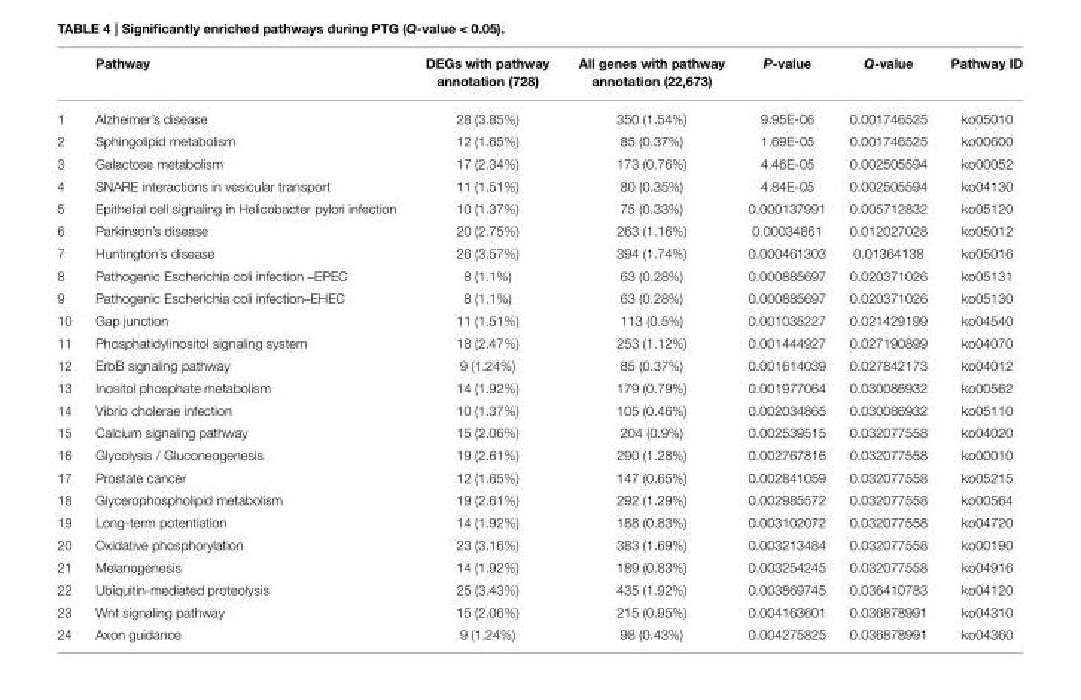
<table><thead><tr><td></td><td>Pathway</td><td>DEGs with pathway annotation (728)</td><td>All genes with pathway annotation (22,673)</td><td>P-value</td><td>Q-value</td><td>Pathway ID</td></tr></thead><tbody><tr><td>1</td><td>Alzheimer’s disease</td><td>28 (3.85%)</td><td>350 (1.54%)</td><td>9.95E-06</td><td>0.001746525</td><td>ko05010</td></tr><tr><td>2</td><td>Sphingolipid metabolism</td><td>12 (1.65%)</td><td>85 (0.37%)</td><td>1.69E-05</td><td>0.001746525</td><td>ko00600</td></tr><tr><td>3</td><td>Galactose metabolism</td><td>17 (2.34%)</td><td>173 (0.76%)</td><td>4.46E-05</td><td>0.002505594</td><td>ko00052</td></tr><tr><td>4</td><td>SNARE interactions in vesicular transport</td><td>11 (1.51%)</td><td>80 (0.35%)</td><td>4.84E-05</td><td>0.002505594</td><td>ko04130</td></tr><tr><td>5</td><td>Epithelial cell signaling in Helicobacter pylori infection</td><td>10 (1.37%)</td><td>75 (0.33%)</td><td>0.000137991</td><td>0.005712832</td><td>ko05120</td></tr><tr><td>6</td><td>Parkinson’s disease</td><td>20 (2.75%)</td><td>263 (1.16%)</td><td>0.00034861</td><td>0.012027028</td><td>ko05012</td></tr><tr><td>7</td><td>Huntington’s disease</td><td>26 (3.57%)</td><td>394 (1.74%)</td><td>0.000461303</td><td>0.01364138</td><td>ko05016</td></tr><tr><td>8</td><td>Pathogenic Escherichia coli infection –EPEC</td><td>8 (1.1%)</td><td>63 (0.28%)</td><td>0.000885697</td><td>0.020371026</td><td>ko05131</td></tr><tr><td>9</td><td>Pathogenic Escherichia coli infection–EHEC</td><td>8 (1.1%)</td><td>63 (0.28%)</td><td>0.000885697</td><td>0.020371026</td><td>ko05130</td></tr><tr><td>10</td><td>Gap junction</td><td>11 (1.51%)</td><td>113 (0.5%)</td><td>0.001035227</td><td>0.021429199</td><td>ko04540</td></tr><tr><td>11</td><td>Phosphatidylinositol signaling system</td><td>18 (2.47%)</td><td>253 (1.12%)</td><td>0.001444927</td><td>0.027190899</td><td>ko04070</td></tr><tr><td>12</td><td>ErbB signaling pathway</td><td>9 (1.24%)</td><td>85 (0.37%)</td><td>0.001614039</td><td>0.027842173</td><td>ko04012</td></tr><tr><td>13</td><td>Inositol phosphate metabolism</td><td>14 (1.92%)</td><td>179 (0.79%)</td><td>0.001977064</td><td>0.030086932</td><td>ko00562</td></tr><tr><td>14</td><td>Vibrio cholerae infection</td><td>10 (1.37%)</td><td>105 (0.46%)</td><td>0.002034865</td><td>0.030086932</td><td>ko05110</td></tr><tr><td>15</td><td>Calcium signaling pathway</td><td>15 (2.06%)</td><td>204 (0.9%)</td><td>0.002539515</td><td>0.032077558</td><td>ko04020</td></tr><tr><td>16</td><td>Glycolysis / Gluconeogenesis</td><td>19 (2.61%)</td><td>290 (1.28%)</td><td>0.002767816</td><td>0.032077558</td><td>ko00010</td></tr><tr><td>17</td><td>Prostate cancer</td><td>12 (1.65%)</td><td>147 (0.65%)</td><td>0.002841059</td><td>0.032077558</td><td>ko05215</td></tr><tr><td>18</td><td>Glycerophospholipid metabolism</td><td>19 (2.61%)</td><td>292 (1.29%)</td><td>0.002985572</td><td>0.032077558</td><td>ko00564</td></tr><tr><td>19</td><td>Long-term potentiation</td><td>14 (1.92%)</td><td>188 (0.83%)</td><td>0.003102072</td><td>0.032077558</td><td>ko04720</td></tr><tr><td>20</td><td>Oxidative phosphorylation</td><td>23 (3.16%)</td><td>383 (1.69%)</td><td>0.003213484</td><td>0.032077558</td><td>ko00190</td></tr><tr><td>21</td><td>Melanogenesis</td><td>14 (1.92%)</td><td>189 (0.83%)</td><td>0.003254245</td><td>0.032077558</td><td>ko04916</td></tr><tr><td>22</td><td>Ubiquitin-mediated proteolysis</td><td>25 (3.43%)</td><td>435 (1.92%)</td><td>0.003869745</td><td>0.036410783</td><td>ko04120</td></tr><tr><td>23</td><td>Wnt signaling pathway</td><td>15 (2.06%)</td><td>215 (0.95%)</td><td>0.004163601</td><td>0.036878991</td><td>ko04310</td></tr><tr><td>24</td><td>Axon guidance</td><td>9 (1.24%)</td><td>98 (0.43%)</td><td>0.004275825</td><td>0.036878991</td><td>ko04360</td></tr></tbody></table>